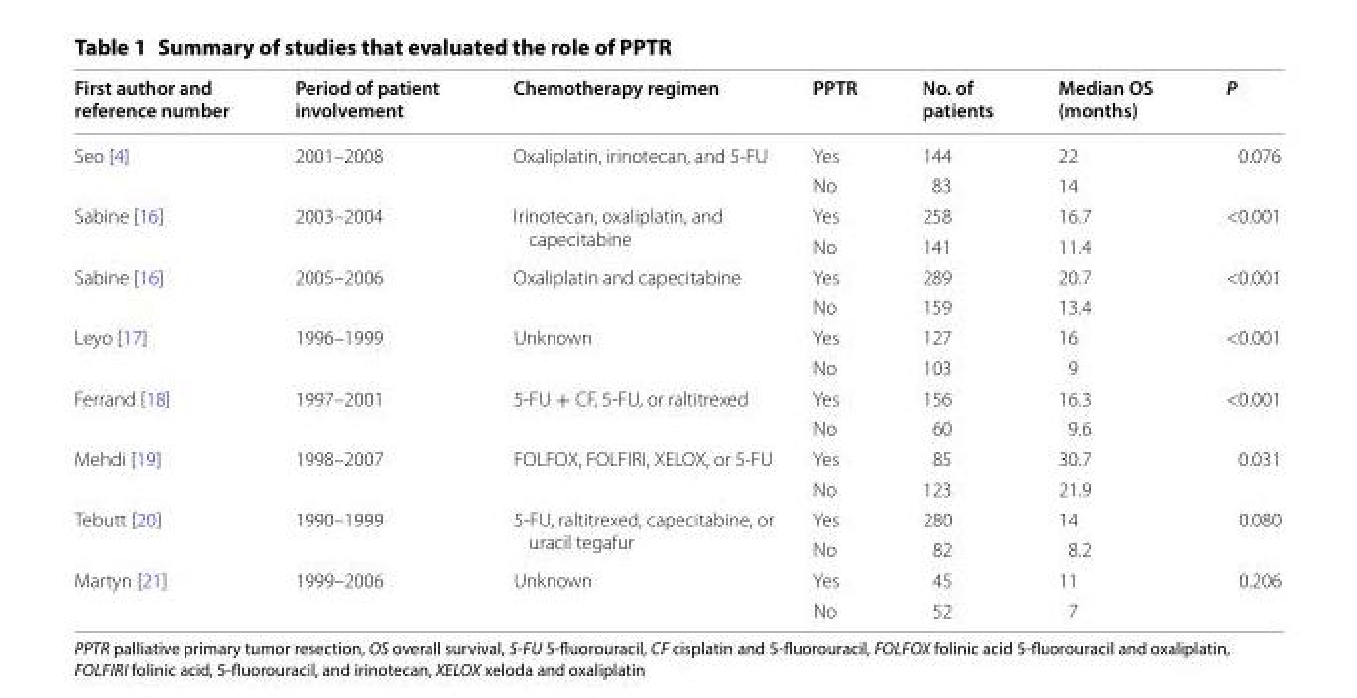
<table><thead><tr><td>First author and reference number</td><td>Period of patient involvement</td><td>Chemotherapy regimen</td><td>PPTR</td><td>No. of patients</td><td>Median OS (months)</td><td>P</td></tr></thead><tbody><tr><td rowspan="2">Seo [4]</td><td rowspan="2">2001–2008</td><td rowspan="2">Oxaliplatin, irinotecan, and 5‑FU</td><td>Yes</td><td>144</td><td>22</td><td rowspan="2">0.076</td></tr><tr><td>No</td><td>83</td><td>14</td></tr><tr><td rowspan="2">Sabine [16]</td><td rowspan="2">2003–2004</td><td rowspan="2">Irinotecan, oxaliplatin, and capecitabine</td><td>Yes</td><td>258</td><td>16.7</td><td rowspan="2">&lt;0.001</td></tr><tr><td>No</td><td>141</td><td>11.4</td></tr><tr><td rowspan="2">Sabine [16]</td><td rowspan="2">2005–2006</td><td rowspan="2">Oxaliplatin and capecitabine</td><td>Yes</td><td>289</td><td>20.7</td><td rowspan="2">&lt;0.001</td></tr><tr><td>No</td><td>159</td><td>13.4</td></tr><tr><td rowspan="2">Leyo [17]</td><td rowspan="2">1996–1999</td><td rowspan="2">Unknown</td><td>Yes</td><td>127</td><td>16</td><td rowspan="2">&lt;0.001</td></tr><tr><td>No</td><td>103</td><td>9</td></tr><tr><td rowspan="2">Ferrand [18]</td><td rowspan="2">1997–2001</td><td rowspan="2">5‑FU + CF, 5‑FU, or raltitrexed</td><td>Yes</td><td>156</td><td>16.3</td><td rowspan="2">&lt;0.001</td></tr><tr><td>No</td><td>60</td><td>9.6</td></tr><tr><td rowspan="2">Mehdi [19]</td><td rowspan="2">1998–2007</td><td rowspan="2">FOLFOX, FOLFIRI, XELOX, or 5‑FU</td><td>Yes</td><td>85</td><td>30.7</td><td rowspan="2">0.031</td></tr><tr><td>No</td><td>123</td><td>21.9</td></tr><tr><td rowspan="2">Tebutt [20]</td><td rowspan="2">1990–1999</td><td rowspan="2">5‑FU, raltitrexed, capecitabine, or uracil tegafur</td><td>Yes</td><td>280</td><td>14</td><td rowspan="2">0.080</td></tr><tr><td>No</td><td>82</td><td>8.2</td></tr><tr><td rowspan="2">Martyn [21]</td><td rowspan="2">1999–2006</td><td rowspan="2">Unknown</td><td>Yes</td><td>45</td><td>11</td><td rowspan="2">0.206</td></tr><tr><td>No</td><td>52</td><td>7</td></tr></tbody></table>